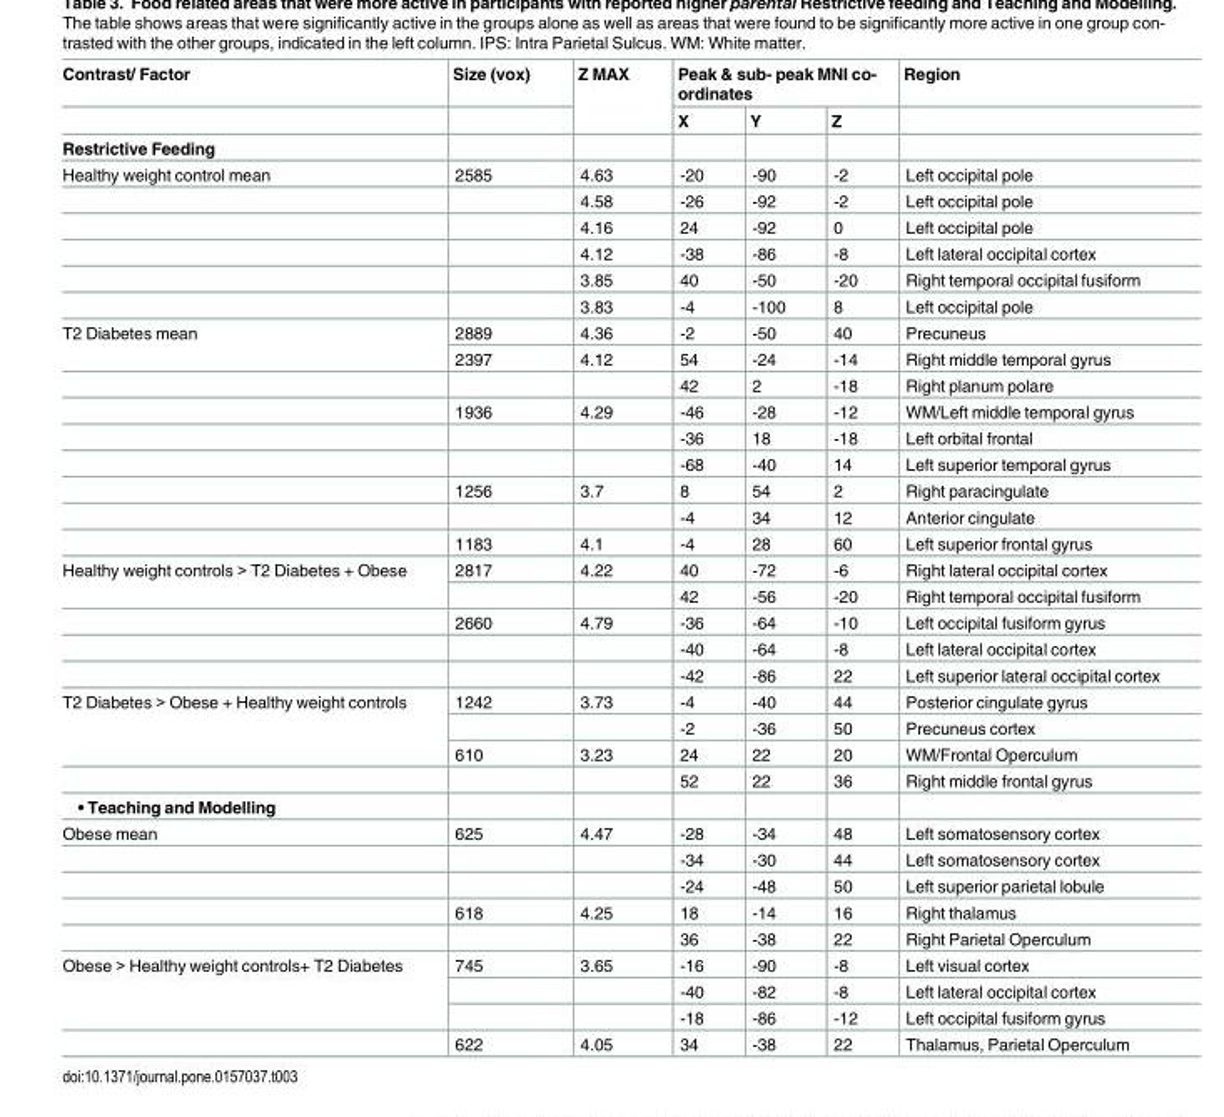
<table><thead><tr><td rowspan="2">Contrast/ Factor</td><td rowspan="2">Size (vox)</td><td rowspan="2">Z MAX</td><td colspan="3">Peak &amp; sub- peak MNI co- ordinates</td><td rowspan="2">Region</td></tr><tr><td>X</td><td>Y</td><td>Z</td></tr></thead><tbody><tr><td colspan="7">Restrictive Feeding</td></tr><tr><td rowspan="6">Healthy weight control mean</td><td>2585</td><td>4.63</td><td>-20</td><td>-90</td><td>-2</td><td>Left occipital pole</td></tr><tr><td></td><td>4.58</td><td>-26</td><td>-92</td><td>-2</td><td>Left occipital pole</td></tr><tr><td></td><td>4.16</td><td>24</td><td>-92</td><td>0</td><td>Left occipital pole</td></tr><tr><td></td><td>4.12</td><td>-38</td><td>-86</td><td>-8</td><td>Left lateral occipital cortex</td></tr><tr><td></td><td>3.85</td><td>40</td><td>-50</td><td>-20</td><td>Right temporal occipital fusiform</td></tr><tr><td></td><td>3.83</td><td>-4</td><td>-100</td><td>8</td><td>Left occipital pole</td></tr><tr><td rowspan="9">T2 Diabetes mean</td><td>2889</td><td>4.36</td><td>-2</td><td>-50</td><td>40</td><td>Precuneus</td></tr><tr><td>2397</td><td>4.12</td><td>54</td><td>-24</td><td>-14</td><td>Right middle temporal gyrus</td></tr><tr><td></td><td></td><td>42</td><td>2</td><td>-18</td><td>Right planum polare</td></tr><tr><td>1936</td><td>4.29</td><td>-46</td><td>-28</td><td>-12</td><td>WM/Left middle temporal gyrus</td></tr><tr><td></td><td></td><td>-36</td><td>18</td><td>-18</td><td>Left orbital frontal</td></tr><tr><td></td><td></td><td>-68</td><td>-40</td><td>14</td><td>Left superior temporal gyrus</td></tr><tr><td>1256</td><td>3.7</td><td>8</td><td>54</td><td>2</td><td>Right paracingulate</td></tr><tr><td></td><td></td><td>-4</td><td>34</td><td>12</td><td>Anterior cingulate</td></tr><tr><td>1183</td><td>4.1</td><td>-4</td><td>28</td><td>60</td><td>Left superior frontal gyrus</td></tr><tr><td rowspan="5">Healthy weight controls &gt; T2 Diabetes + Obese</td><td>2817</td><td>4.22</td><td>40</td><td>-72</td><td>-6</td><td>Right lateral occipital cortex</td></tr><tr><td></td><td></td><td>42</td><td>-56</td><td>-20</td><td>Right temporal occipital fusiform</td></tr><tr><td>2660</td><td>4.79</td><td>-36</td><td>-64</td><td>-10</td><td>Left occipital fusiform gyrus</td></tr><tr><td></td><td></td><td>-40</td><td>-64</td><td>-8</td><td>Left lateral occipital cortex</td></tr><tr><td></td><td></td><td>-42</td><td>-86</td><td>22</td><td>Left superior lateral occipital cortex</td></tr><tr><td rowspan="4">T2 Diabetes &gt; Obese + Healthy weight controls</td><td>1242</td><td>3.73</td><td>-4</td><td>-40</td><td>44</td><td>Posterior cingulate gyrus</td></tr><tr><td></td><td></td><td>-2</td><td>-36</td><td>50</td><td>Precuneus cortex</td></tr><tr><td>610</td><td>3.23</td><td>24</td><td>22</td><td>20</td><td>WM/Frontal Operculum</td></tr><tr><td></td><td></td><td>52</td><td>22</td><td>36</td><td>Right middle frontal gyrus</td></tr><tr><td colspan="7">• Teaching and Modelling</td></tr><tr><td rowspan="5">Obese mean</td><td>625</td><td>4.47</td><td>-28</td><td>-34</td><td>48</td><td>Left somatosensory cortex</td></tr><tr><td></td><td></td><td>-34</td><td>-30</td><td>44</td><td>Left somatosensory cortex</td></tr><tr><td></td><td></td><td>-24</td><td>-48</td><td>50</td><td>Left superior parietal lobule</td></tr><tr><td>618</td><td>4.25</td><td>18</td><td>-14</td><td>16</td><td>Right thalamus</td></tr><tr><td></td><td></td><td>36</td><td>-38</td><td>22</td><td>Right Parietal Operculum</td></tr><tr><td rowspan="4">Obese &gt; Healthy weight controls+ T2 Diabetes</td><td>745</td><td>3.65</td><td>-16</td><td>-90</td><td>-8</td><td>Left visual cortex</td></tr><tr><td></td><td></td><td>-40</td><td>-82</td><td>-8</td><td>Left lateral occipital cortex</td></tr><tr><td></td><td></td><td>-18</td><td>-86</td><td>-12</td><td>Left occipital fusiform gyrus</td></tr><tr><td>622</td><td>4.05</td><td>34</td><td>-38</td><td>22</td><td>Thalamus, Parietal Operculum</td></tr></tbody></table>